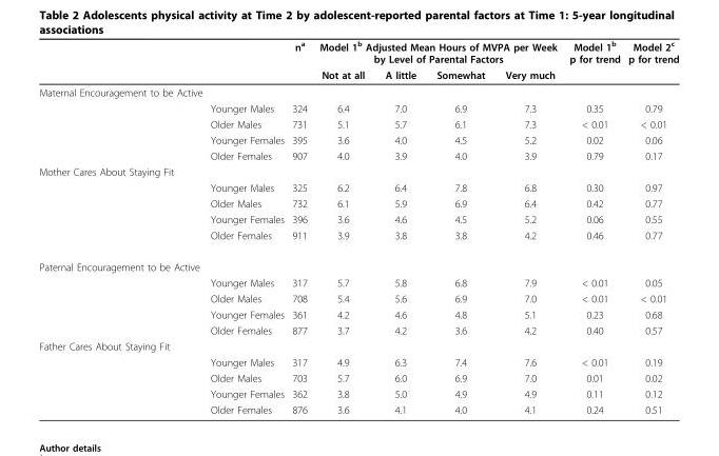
<table><thead><tr><td rowspan="2"></td><td rowspan="2"></td><td rowspan="2">n<sup>a</sup></td><td colspan="4">Model 1<sup>b</sup> Adjusted Mean Hours of MVPA per Week by Level of Parental Factors</td><td rowspan="2">Model 1<sup>b</sup> p for trend</td><td rowspan="2">Model 2<sup>c</sup> p for trend</td></tr><tr><td>Not at all</td><td>A little</td><td>Somewhat</td><td>Very much</td></tr></thead><tbody><tr><td colspan="9">Maternal Encouragement to be Active</td></tr><tr><td></td><td>Younger Males</td><td>324</td><td>6.4</td><td>7.0</td><td>6.9</td><td>7.3</td><td>0.35</td><td>0.79</td></tr><tr><td></td><td>Older Males</td><td>731</td><td>5.1</td><td>5.7</td><td>6.1</td><td>7.3</td><td>&lt; 0.01</td><td>&lt; 0.01</td></tr><tr><td></td><td>Younger Females</td><td>395</td><td>3.6</td><td>4.0</td><td>4.5</td><td>5.2</td><td>0.02</td><td>0.06</td></tr><tr><td></td><td>Older Females</td><td>907</td><td>4.0</td><td>3.9</td><td>4.0</td><td>3.9</td><td>0.79</td><td>0.17</td></tr><tr><td colspan="9">Mother Cares About Staying Fit</td></tr><tr><td></td><td>Younger Males</td><td>325</td><td>6.2</td><td>6.4</td><td>7.8</td><td>6.8</td><td>0.30</td><td>0.97</td></tr><tr><td></td><td>Older Males</td><td>732</td><td>6.1</td><td>5.9</td><td>6.9</td><td>6.4</td><td>0.42</td><td>0.77</td></tr><tr><td></td><td>Younger Females</td><td>396</td><td>3.6</td><td>4.6</td><td>4.5</td><td>5.2</td><td>0.06</td><td>0.55</td></tr><tr><td></td><td>Older Females</td><td>911</td><td>3.9</td><td>3.8</td><td>3.8</td><td>4.2</td><td>0.46</td><td>0.77</td></tr><tr><td colspan="9">Paternal Encouragement to be Active</td></tr><tr><td></td><td>Younger Males</td><td>317</td><td>5.7</td><td>5.8</td><td>6.8</td><td>7.9</td><td>&lt; 0.01</td><td>0.05</td></tr><tr><td></td><td>Older Males</td><td>708</td><td>5.4</td><td>5.6</td><td>6.9</td><td>7.0</td><td>&lt; 0.01</td><td>&lt; 0.01</td></tr><tr><td></td><td>Younger Females</td><td>361</td><td>4.2</td><td>4.6</td><td>4.8</td><td>5.1</td><td>0.23</td><td>0.68</td></tr><tr><td></td><td>Older Females</td><td>877</td><td>3.7</td><td>4.2</td><td>3.6</td><td>4.2</td><td>0.40</td><td>0.57</td></tr><tr><td colspan="9">Father Cares About Staying Fit</td></tr><tr><td></td><td>Younger Males</td><td>317</td><td>4.9</td><td>6.3</td><td>7.4</td><td>7.6</td><td>&lt; 0.01</td><td>0.19</td></tr><tr><td></td><td>Older Males</td><td>703</td><td>5.7</td><td>6.0</td><td>6.9</td><td>7.0</td><td>0.01</td><td>0.02</td></tr><tr><td></td><td>Younger Females</td><td>362</td><td>3.8</td><td>5.0</td><td>4.9</td><td>4.9</td><td>0.11</td><td>0.12</td></tr><tr><td></td><td>Older Females</td><td>876</td><td>3.6</td><td>4.1</td><td>4.0</td><td>4.1</td><td>0.24</td><td>0.51</td></tr></tbody></table>